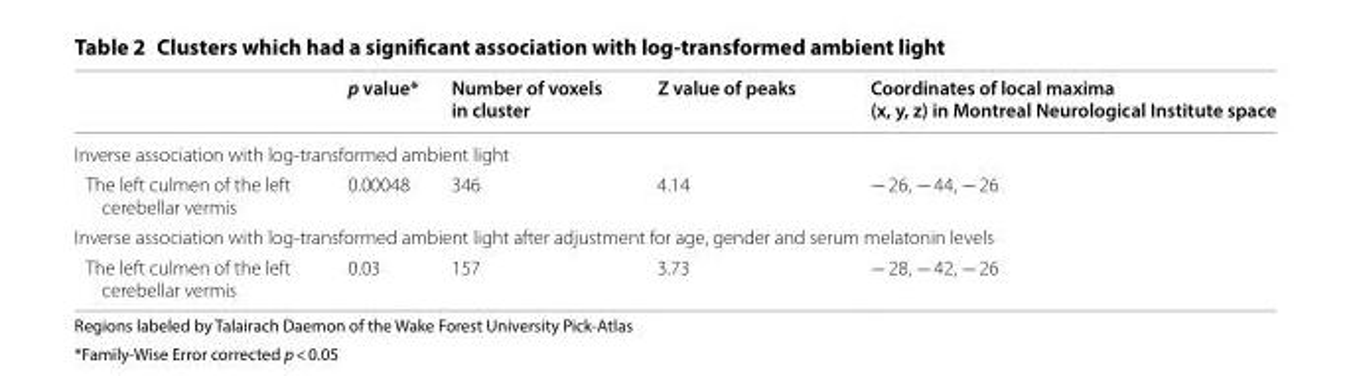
<table><thead><tr><td></td><td>p value*</td><td>Number of voxels in cluster</td><td>Z value of peaks</td><td>Coordinates of local maxima (x, y, z) in Montreal Neurological Institute space</td></tr></thead><tbody><tr><td colspan="5">Inverse association with log-transformed ambient light</td></tr><tr><td>The left culmen of the left cerebellar vermis</td><td>0.00048</td><td>346</td><td>4.14</td><td>− 26, − 44, − 26</td></tr><tr><td colspan="5">Inverse association with log-transformed ambient light after adjustment for age, gender and serum melatonin levels</td></tr><tr><td>The left culmen of the left cerebellar vermis</td><td>0.03</td><td>157</td><td>3.73</td><td>− 28, − 42, − 26</td></tr></tbody></table>